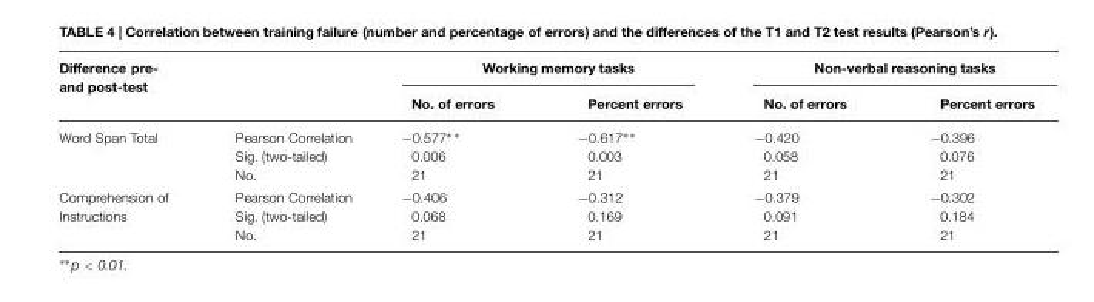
<table><thead><tr><td rowspan="2">Difference pre- and post-test</td><td rowspan="2"></td><td colspan="2">Working memory tasks</td><td colspan="2">Non-verbal reasoning tasks</td></tr><tr><td>No. of errors</td><td>Percent errors</td><td>No. of errors</td><td>Percent errors</td></tr></thead><tbody><tr><td>Word Span Total</td><td>Pearson Correlation Sig. (two-tailed) No.</td><td>−0.577∗ ∗ 0.006 21</td><td>−0.617∗ ∗ 0.003 21</td><td>−0.420 0.058 21</td><td>−0.396 0.076 21</td></tr><tr><td>Comprehension of Instructions</td><td>Pearson Correlation Sig. (two-tailed) No.</td><td>−0.406 0.068 21</td><td>−0.312 0.169 21</td><td>−0.379 0.091 21</td><td>−0.302 0.184 21</td></tr></tbody></table>